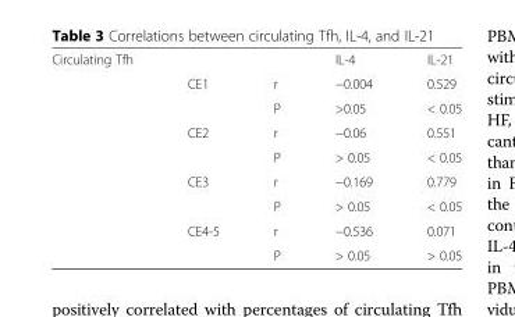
<table><tbody><tr><td rowspan="9">Circulating Tfh</td><td></td><td></td><td>IL-4</td><td>IL-21</td></tr><tr><td rowspan="2">CE1</td><td>r</td><td>−0.004</td><td>0.529</td></tr><tr><td>P</td><td>&gt;0.05</td><td>&lt; 0.05</td></tr><tr><td rowspan="2">CE2</td><td>r</td><td>−0.06</td><td>0.551</td></tr><tr><td>P</td><td>&gt; 0.05</td><td>&lt; 0.05</td></tr><tr><td rowspan="2">CE3</td><td>r</td><td>−0.169</td><td>0.779</td></tr><tr><td>P</td><td>&gt; 0.05</td><td>&lt; 0.05</td></tr><tr><td rowspan="2">CE4-5</td><td>r</td><td>−0.536</td><td>0.071</td></tr><tr><td>P</td><td>&gt; 0.05</td><td>&gt; 0.05</td></tr></tbody></table>